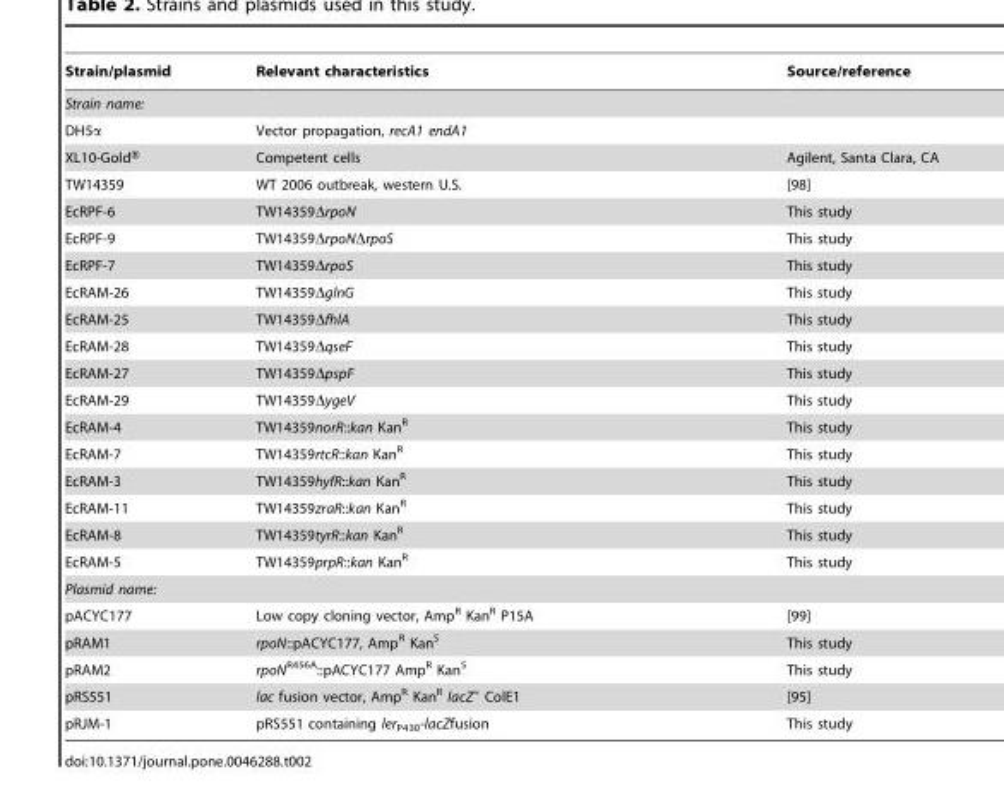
<table><thead><tr><td>Strain/plasmid</td><td>Relevant characteristics</td><td>Source/reference</td></tr></thead><tbody><tr><td colspan="3">Strain name:</td></tr><tr><td>DH5α</td><td>Vector propagation, recA1 endA1</td><td></td></tr><tr><td>XL10-Gold®</td><td>Competent cells</td><td>Agilent, Santa Clara, CA</td></tr><tr><td>TW14359</td><td>WT 2006 outbreak, western U.S.</td><td>[98]</td></tr><tr><td>EcRPF-6</td><td>TW14359ΔrpoN</td><td>This study</td></tr><tr><td>EcRPF-9</td><td>TW14359ΔrpoNΔrpoS</td><td>This study</td></tr><tr><td>EcRPF-7</td><td>TW14359ΔrpoS</td><td>This study</td></tr><tr><td>EcRAM-26</td><td>TW14359ΔglnG</td><td>This study</td></tr><tr><td>EcRAM-25</td><td>TW14359ΔfhlA</td><td>This study</td></tr><tr><td>EcRAM-28</td><td>TW14359ΔqseF</td><td>This study</td></tr><tr><td>EcRAM-27</td><td>TW14359ΔpspF</td><td>This study</td></tr><tr><td>EcRAM-29</td><td>TW14359ΔygeV</td><td>This study</td></tr><tr><td>EcRAM-4</td><td>TW14359norR::kan Kan<sup>R</sup></td><td>This study</td></tr><tr><td>EcRAM-7</td><td>TW14359rtcR::kan Kan<sup>R</sup></td><td>This study</td></tr><tr><td>EcRAM-3</td><td>TW14359hyfR::kan Kan<sup>R</sup></td><td>This study</td></tr><tr><td>EcRAM-11</td><td>TW14359zraR::kan Kan<sup>R</sup></td><td>This study</td></tr><tr><td>EcRAM-8</td><td>TW14359tyrR::kan Kan<sup>R</sup></td><td>This study</td></tr><tr><td>EcRAM-5</td><td>TW14359prpR::kan Kan<sup>R</sup></td><td>This study</td></tr><tr><td colspan="3">Plasmid name:</td></tr><tr><td>pACYC177</td><td>Low copy cloning vector, Amp<sup>R</sup> Kan<sup>R</sup> P15A</td><td>[99]</td></tr><tr><td>pRAM1</td><td>rpoN::pACYC177, Amp<sup>R</sup> Kan<sup>S</sup></td><td>This study</td></tr><tr><td>pRAM2</td><td>rpoN<sup>R456A</sup>::pACYC177 Amp<sup>R</sup> Kan<sup>S</sup></td><td>This study</td></tr><tr><td>pRS551</td><td>lac fusion vector, Amp<sup>R</sup> Kan<sup>R</sup> lacZ<sup>+</sup> ColE1</td><td>[95]</td></tr><tr><td>pRJM-1</td><td>pRS551 containing ler<sub>P430</sub>-lacZfusion</td><td>This study</td></tr></tbody></table>